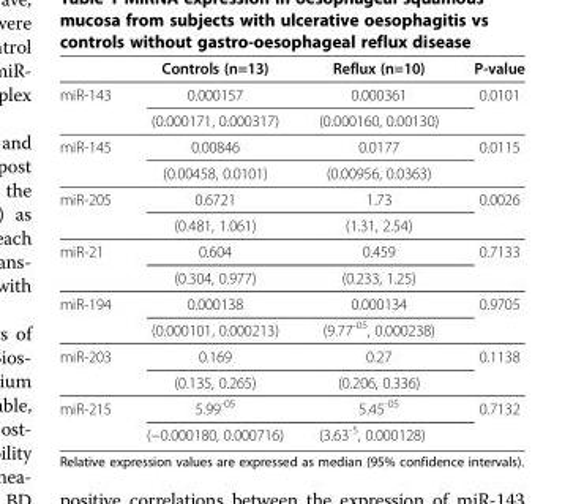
<table><thead><tr><td></td><td>Controls (n=13)</td><td>Reflux (n=10)</td><td>P-value</td></tr></thead><tbody><tr><td rowspan="2">miR-143</td><td>0.000157</td><td>0.000361</td><td rowspan="2">0.0101</td></tr><tr><td>(0.000171, 0.000317)</td><td>(0.000160, 0.00130)</td></tr><tr><td rowspan="2">miR-145</td><td>0.00846</td><td>0.0177</td><td rowspan="2">0.0115</td></tr><tr><td>(0.00458, 0.0101)</td><td>(0.00956, 0.0363)</td></tr><tr><td rowspan="2">miR-205</td><td>0.6721</td><td>1.73</td><td rowspan="2">0.0026</td></tr><tr><td>(0.481, 1.061)</td><td>(1.31, 2.54)</td></tr><tr><td rowspan="2">miR-21</td><td>0.604</td><td>0.459</td><td rowspan="2">0.7133</td></tr><tr><td>(0.304, 0.977)</td><td>(0.233, 1.25)</td></tr><tr><td rowspan="2">miR-194</td><td>0.000138</td><td>0.000134</td><td rowspan="2">0.9705</td></tr><tr><td>(0.000101, 0.000213)</td><td>(9.77<sup>-05</sup>, 0.000238)</td></tr><tr><td rowspan="2">miR-203</td><td>0.169</td><td>0.27</td><td rowspan="2">0.1138</td></tr><tr><td>(0.135, 0.265)</td><td>(0.206, 0.336)</td></tr><tr><td rowspan="2">miR-215</td><td>5.99<sup>-05</sup></td><td>5.45<sup>-05</sup></td><td rowspan="2">0.7132</td></tr><tr><td>(−0.000180, 0.000716)</td><td>(3.63<sup>-5</sup>, 0.000128)</td></tr></tbody></table>